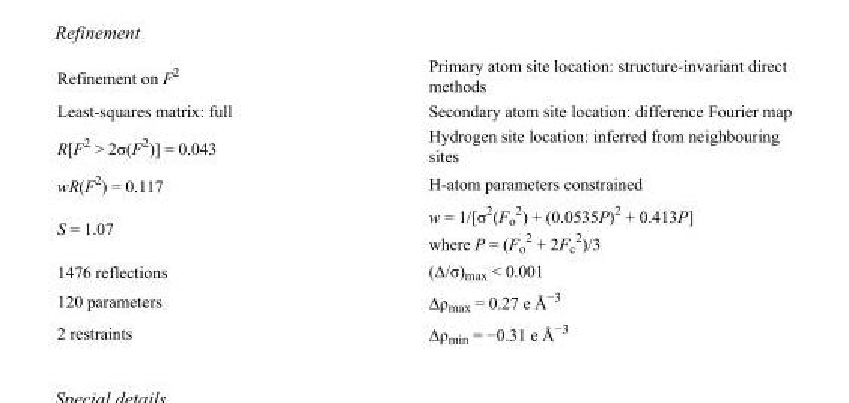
<table><tbody><tr><td>Refinement on F<sup>2</sup></td><td>Primary atom site location: structure-invariant direct methods</td></tr><tr><td>Least-squares matrix: full</td><td>Secondary atom site location: difference Fourier map</td></tr><tr><td>R[F<sup>2</sup> &gt; 2σ(F<sup>2</sup>)] = 0.043</td><td>Hydrogen site location: inferred from neighbouring sites</td></tr><tr><td>wR(F<sup>2</sup>) = 0.117</td><td>H-atom parameters constrained</td></tr><tr><td>S = 1.07</td><td>w = 1/[σ<sup>2</sup>(F<sub>o</sub> <sup>2</sup>) + (0.0535P)<sup>2</sup> + 0.413P] where P = (F<sub>o</sub> <sup>2</sup> + 2F<sub>c</sub> <sup>2</sup>)/3</td></tr><tr><td>1476 reflections</td><td>(Δ/σ)<sub>max</sub> &lt; 0.001</td></tr><tr><td>120 parameters</td><td>Δρ<sub>max</sub> = 0.27 e Å<sup>−3</sup></td></tr><tr><td>2 restraints</td><td>Δρ<sub>min</sub> = −0.31 e Å<sup>−3</sup></td></tr></tbody></table>